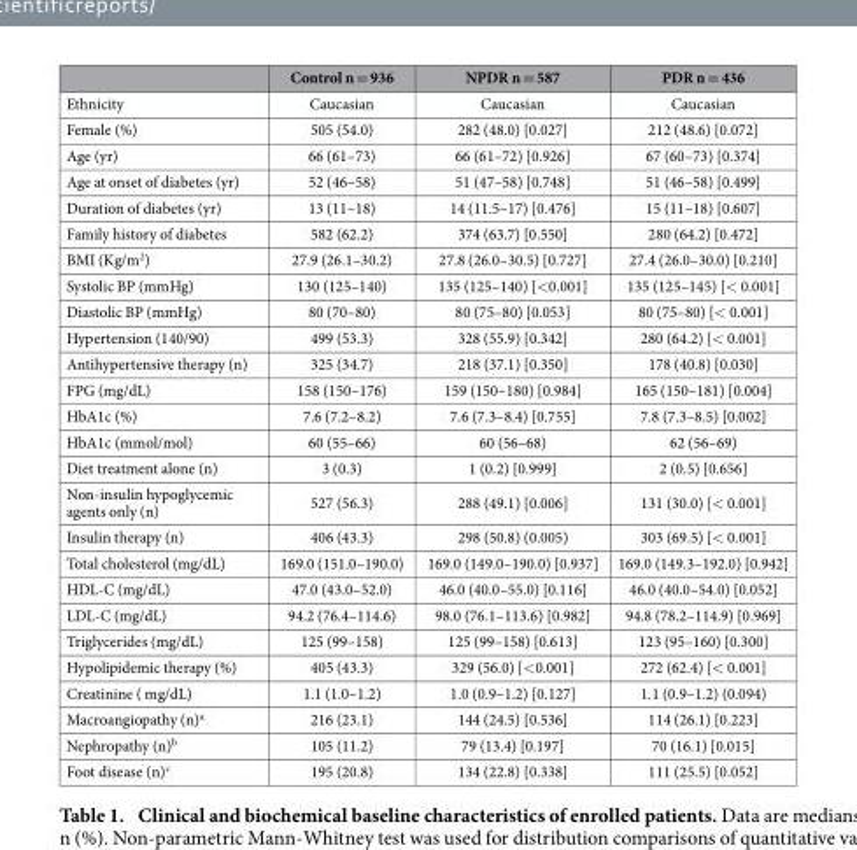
<table><thead><tr><td></td><td>Control n = 936</td><td>NPDR n = 587</td><td>PDR n = 436</td></tr></thead><tbody><tr><td>Ethnicity</td><td>Caucasian</td><td>Caucasian</td><td>Caucasian</td></tr><tr><td>Female (%)</td><td>505 (54.0)</td><td>282 (48.0) [0.027]</td><td>212 (48.6) [0.072]</td></tr><tr><td>Age (yr)</td><td>66 (61–73)</td><td>66 (61–72) [0.926]</td><td>67 (60–73) [0.374]</td></tr><tr><td>Age at onset of diabetes (yr)</td><td>52 (46–58)</td><td>51 (47–58) [0.748]</td><td>51 (46–58) [0.499]</td></tr><tr><td>Duration of diabetes (yr)</td><td>13 (11–18)</td><td>14 (11.5–17) [0.476]</td><td>15 (11–18) [0.607]</td></tr><tr><td>Family history of diabetes</td><td>582 (62.2)</td><td>374 (63.7) [0.550]</td><td>280 (64.2) [0.472]</td></tr><tr><td>BMI (Kg/m<sup>2</sup>)</td><td>27.9 (26.1–30.2)</td><td>27.8 (26.0–30.5) [0.727]</td><td>27.4 (26.0–30.0) [0.210]</td></tr><tr><td>Systolic BP (mmHg)</td><td>130 (125–140)</td><td>135 (125–140) [&lt; 0.001]</td><td>135 (125–145) [&lt; 0.001]</td></tr><tr><td>Diastolic BP (mmHg)</td><td>80 (70–80)</td><td>80 (75–80) [0.053]</td><td>80 (75–80) [&lt; 0.001]</td></tr><tr><td>Hypertension (140/90)</td><td>499 (53.3)</td><td>328 (55.9) [0.342]</td><td>280 (64.2) [&lt; 0.001]</td></tr><tr><td>Antihypertensive therapy (n)</td><td>325 (34.7)</td><td>218 (37.1) [0.350]</td><td>178 (40.8) [0.030]</td></tr><tr><td>FPG (mg/dL)</td><td>158 (150–176)</td><td>159 (150–180) [0.984]</td><td>165 (150–181) [0.004]</td></tr><tr><td>HbA1c (%)</td><td>7.6 (7.2–8.2)</td><td>7.6 (7.3–8.4) [0.755]</td><td>7.8 (7.3–8.5) [0.002]</td></tr><tr><td>HbA1c (mmol/mol)</td><td>60 (55–66)</td><td>60 (56–68)</td><td>62 (56–69)</td></tr><tr><td>Diet treatment alone (n)</td><td>3 (0.3)</td><td>1 (0.2) [0.999]</td><td>2 (0.5) [0.656]</td></tr><tr><td>Non-insulin hypoglycemic agents only (n)</td><td>527 (56.3)</td><td>288 (49.1) [0.006]</td><td>131 (30.0) [&lt; 0.001]</td></tr><tr><td>Insulin therapy (n)</td><td>406 (43.3)</td><td>298 (50.8) (0.005)</td><td>303 (69.5) [&lt; 0.001]</td></tr><tr><td>Total cholesterol (mg/dL)</td><td>169.0 (151.0–190.0)</td><td>169.0 (149.0–190.0) [0.937]</td><td>169.0 (149.3–192.0) [0.942]</td></tr><tr><td>HDL-C (mg/dL)</td><td>47.0 (43.0–52.0)</td><td>46.0 (40.0–55.0) [0.116]</td><td>46.0 (40.0–54.0) [0.052]</td></tr><tr><td>LDL-C (mg/dL)</td><td>94.2 (76.4–114.6)</td><td>98.0 (76.1–113.6) [0.982]</td><td>94.8 (78.2–114.9) [0.969]</td></tr><tr><td>Triglycerides (mg/dL)</td><td>125 (99–158)</td><td>125 (99–158) [0.613]</td><td>123 (95–160) [0.300]</td></tr><tr><td>Hypolipidemic therapy (%)</td><td>405 (43.3)</td><td>329 (56.0) [&lt; 0.001]</td><td>272 (62.4) [&lt; 0.001]</td></tr><tr><td>Creatinine ( mg/dL)</td><td>1.1 (1.0–1.2)</td><td>1.0 (0.9–1.2) [0.127]</td><td>1.1 (0.9–1.2) (0.094)</td></tr><tr><td>Macroangiopathy (n)<sup>a</sup></td><td>216 (23.1)</td><td>144 (24.5) [0.536]</td><td>114 (26.1) [0.223]</td></tr><tr><td>Nephropathy (n)<sup>b</sup></td><td>105 (11.2)</td><td>79 (13.4) [0.197]</td><td>70 (16.1) [0.015]</td></tr><tr><td>Foot disease (n)<sup>c</sup></td><td>195 (20.8)</td><td>134 (22.8) [0.338]</td><td>111 (25.5) [0.052]</td></tr></tbody></table>